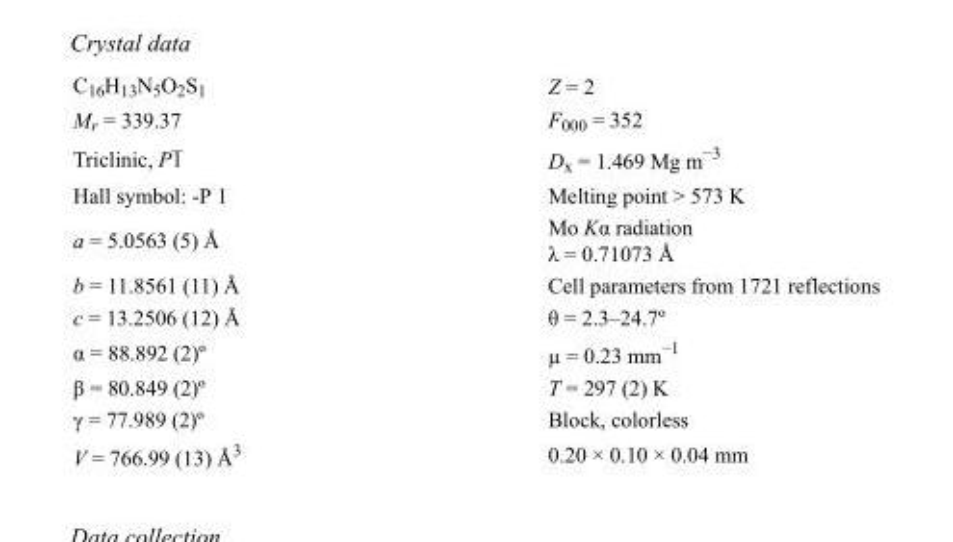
<table><tbody><tr><td>C<sub>16</sub>H<sub>13</sub>N<sub>5</sub>O<sub>2</sub>S<sub>1</sub></td><td>Z = 2</td></tr><tr><td>M<sub>r</sub> = 339.37</td><td>F<sub>000</sub> = 352</td></tr><tr><td>Triclinic, P1</td><td>D<sub>x</sub> = 1.469 Mg m<sup>−3</sup></td></tr><tr><td>Hall symbol: -P 1</td><td>Melting point &gt; 573 K</td></tr><tr><td>a = 5.0563 (5) Å</td><td>Mo Kα radiation λ = 0.71073 Å</td></tr><tr><td>b = 11.8561 (11) Å</td><td>Cell parameters from 1721 reflections</td></tr><tr><td>c = 13.2506 (12) Å</td><td>θ = 2.3–24.7º</td></tr><tr><td>α = 88.892 (2)º</td><td>µ = 0.23 mm<sup>−1</sup></td></tr><tr><td>β = 80.849 (2)º</td><td>T = 297 (2) K</td></tr><tr><td>γ = 77.989 (2)º</td><td>Block, colorless</td></tr><tr><td>V = 766.99 (13) Å<sup>3</sup></td><td>0.20 × 0.10 × 0.04 mm</td></tr></tbody></table>